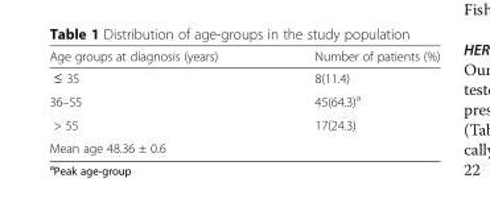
<table><thead><tr><td>Age groups at diagnosis (years)</td><td>Number of patients (%)</td></tr></thead><tbody><tr><td>≤ 35</td><td>8(11.4)</td></tr><tr><td>36–55</td><td>45(64.3)<sup>a</sup></td></tr><tr><td>&gt; 55</td><td>17(24.3)</td></tr><tr><td>Mean age 48.36 ± 0.6</td><td></td></tr></tbody></table>